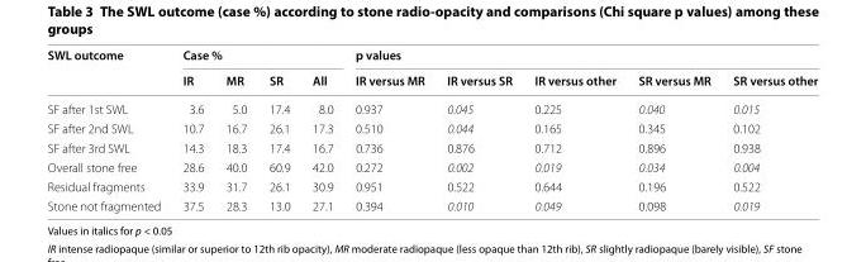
<table><thead><tr><td rowspan="2">SWL outcome</td><td colspan="4">Case %</td><td colspan="5">p values</td></tr><tr><td>IR</td><td>MR</td><td>SR</td><td>All</td><td>IR versus MR</td><td>IR versus SR</td><td>IR versus other</td><td>SR versus MR</td><td>SR versus other</td></tr></thead><tbody><tr><td>SF after 1st SWL</td><td>3.6</td><td>5.0</td><td>17.4</td><td>8.0</td><td>0.937</td><td>0.045</td><td>0.225</td><td>0.040</td><td>0.015</td></tr><tr><td>SF after 2nd SWL</td><td>10.7</td><td>16.7</td><td>26.1</td><td>17.3</td><td>0.510</td><td>0.044</td><td>0.165</td><td>0.345</td><td>0.102</td></tr><tr><td>SF after 3rd SWL</td><td>14.3</td><td>18.3</td><td>17.4</td><td>16.7</td><td>0.736</td><td>0.876</td><td>0.712</td><td>0.896</td><td>0.938</td></tr><tr><td>Overall stone free</td><td>28.6</td><td>40.0</td><td>60.9</td><td>42.0</td><td>0.272</td><td>0.002</td><td>0.019</td><td>0.034</td><td>0.004</td></tr><tr><td>Residual fragments</td><td>33.9</td><td>31.7</td><td>26.1</td><td>30.9</td><td>0.951</td><td>0.522</td><td>0.644</td><td>0.196</td><td>0.522</td></tr><tr><td>Stone not fragmented</td><td>37.5</td><td>28.3</td><td>13.0</td><td>27.1</td><td>0.394</td><td>0.010</td><td>0.049</td><td>0.098</td><td>0.019</td></tr></tbody></table>